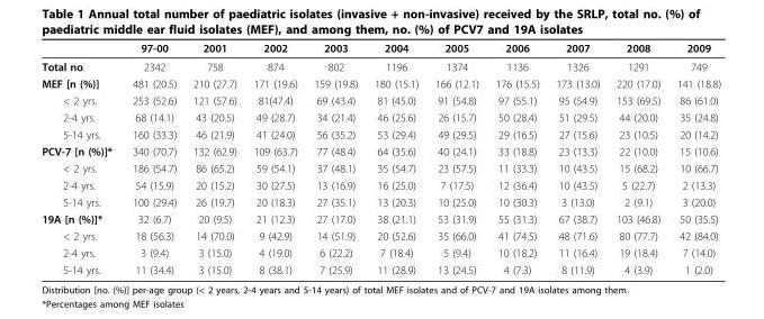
<table><thead><tr><td></td><td>97-00</td><td>2001</td><td>2002</td><td>2003</td><td>2004</td><td>2005</td><td>2006</td><td>2007</td><td>2008</td><td>2009</td></tr></thead><tbody><tr><td>Total no.</td><td>2342</td><td>758</td><td>874</td><td>802</td><td>1196</td><td>1374</td><td>1136</td><td>1326</td><td>1291</td><td>749</td></tr><tr><td>MEF [n (%)]</td><td>481 (20.5)</td><td>210 (27.7)</td><td>171 (19.6)</td><td>159 (19.8)</td><td>180 (15.1)</td><td>166 (12.1)</td><td>176 (15.5)</td><td>173 (13.0)</td><td>220 (17.0)</td><td>141 (18.8)</td></tr><tr><td>&lt; 2 yrs.</td><td>253 (52.6)</td><td>121 (57.6)</td><td>81(47.4)</td><td>69 (43.4)</td><td>81 (45.0)</td><td>91 (54.8)</td><td>97 (55.1)</td><td>95 (54.9)</td><td>153 (69.5)</td><td>86 (61.0)</td></tr><tr><td>2-4 yrs.</td><td>68 (14.1)</td><td>43 (20.5)</td><td>49 (28.7)</td><td>34 (21.4)</td><td>46 (25.6)</td><td>26 (15.7)</td><td>50 (28.4)</td><td>51 (29.5)</td><td>44 (20.0)</td><td>35 (24.8)</td></tr><tr><td>5-14 yrs.</td><td>160 (33.3)</td><td>46 (21.9)</td><td>41 (24.0)</td><td>56 (35.2)</td><td>53 (29.4)</td><td>49 (29.5)</td><td>29 (16.5)</td><td>27 (15.6)</td><td>23 (10.5)</td><td>20 (14.2)</td></tr><tr><td>PCV-7 [n (%)]*</td><td>340 (70.7)</td><td>132 (62.9)</td><td>109 (63.7)</td><td>77 (48.4)</td><td>64 (35.6)</td><td>40 (24.1)</td><td>33 (18.8)</td><td>23 (13.3)</td><td>22 (10.0)</td><td>15 (10.6)</td></tr><tr><td>&lt; 2 yrs.</td><td>186 (54.7)</td><td>86 (65.2)</td><td>59 (54.1)</td><td>37 (48.1)</td><td>35 (54.7)</td><td>23 (57.5)</td><td>11 (33.3)</td><td>10 (43.5)</td><td>15 (68.2)</td><td>10 (66.7)</td></tr><tr><td>2-4 yrs.</td><td>54 (15.9)</td><td>20 (15.2)</td><td>30 (27.5)</td><td>13 (16.9)</td><td>16 (25.0)</td><td>7 (17.5)</td><td>12 (36.4)</td><td>10 (43.5)</td><td>5 (22.7)</td><td>2 (13.3)</td></tr><tr><td>5-14 yrs.</td><td>100 (29.4)</td><td>26 (19.7)</td><td>20 (18.3)</td><td>27 (35.1)</td><td>13 (20.3)</td><td>10 (25.0)</td><td>10 (30.3)</td><td>3 (13.0)</td><td>2 (9.1)</td><td>3 (20.0)</td></tr><tr><td>19A [n (%)]*</td><td>32 (6.7)</td><td>20 (9.5)</td><td>21 (12.3)</td><td>27 (17.0)</td><td>38 (21.1)</td><td>53 (31.9)</td><td>55 (31.3)</td><td>67 (38.7)</td><td>103 (46.8)</td><td>50 (35.5)</td></tr><tr><td>&lt; 2 yrs.</td><td>18 (56.3)</td><td>14 (70.0)</td><td>9 (42.9)</td><td>14 (51.9)</td><td>20 (52.6)</td><td>35 (66.0)</td><td>41 (74.5)</td><td>48 (71.6)</td><td>80 (77.7)</td><td>42 (84.0)</td></tr><tr><td>2-4 yrs.</td><td>3 (9.4)</td><td>3 (15.0)</td><td>4 (19.0)</td><td>6 (22.2)</td><td>7 (18.4)</td><td>5 (9.4)</td><td>10 (18.2)</td><td>11 (16.4)</td><td>19 (18.4)</td><td>7 (14.0)</td></tr><tr><td>5-14 yrs.</td><td>11 (34.4)</td><td>3 (15.0)</td><td>8 (38.1)</td><td>7 (25.9)</td><td>11 (28.9)</td><td>13 (24.5)</td><td>4 (7.3)</td><td>8 (11.9)</td><td>4 (3.9)</td><td>1 (2.0)</td></tr></tbody></table>